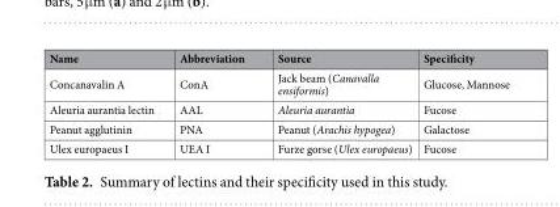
<table><thead><tr><td>Name</td><td>Abbreviation</td><td>Source</td><td>Specificity</td></tr></thead><tbody><tr><td>Concanavalin A</td><td>ConA</td><td>Jack beam (Canavalla ensiformis)</td><td>Glucose, Mannose</td></tr><tr><td>Aleuria aurantia lectin</td><td>AAL</td><td>Aleuria aurantia</td><td>Fucose</td></tr><tr><td>Peanut agglutinin</td><td>PNA</td><td>Peanut (Arachis hypogea)</td><td>Galactose</td></tr><tr><td>Ulex europaeus I</td><td>UEA I</td><td>Furze gorse (Ulex europaeus)</td><td>Fucose</td></tr></tbody></table>